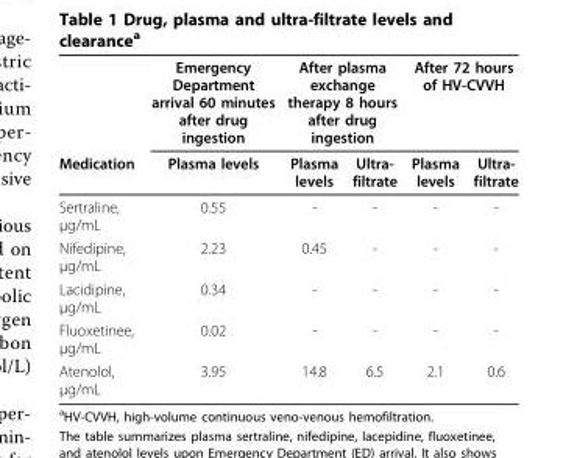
<table><thead><tr><td rowspan="2">Medication</td><td rowspan="2">Emergency Department arrival 60 minutes after drug ingestion Plasma levels</td><td colspan="2">After plasma exchange therapy 8 hours after drug ingestion</td><td colspan="2">After 72 hours of HV-CVVH</td></tr><tr><td>Plasma levels</td><td>Ultra- filtrate</td><td>Plasma levels</td><td>Ultra- filtrate</td></tr></thead><tbody><tr><td>Sertraline, μg/mL</td><td>0.55</td><td>-</td><td>-</td><td>-</td><td>-</td></tr><tr><td>Nifedipine, μg/mL</td><td>2.23</td><td>0.45</td><td>-</td><td>-</td><td>-</td></tr><tr><td>Lacidipine, μg/mL</td><td>0.34</td><td>-</td><td>-</td><td>-</td><td>-</td></tr><tr><td>Fluoxetinee, μg/mL</td><td>0.02</td><td>-</td><td>-</td><td>-</td><td>-</td></tr><tr><td>Atenolol, μg/mL</td><td>3.95</td><td>14.8</td><td>6.5</td><td>2.1</td><td>0.6</td></tr></tbody></table>